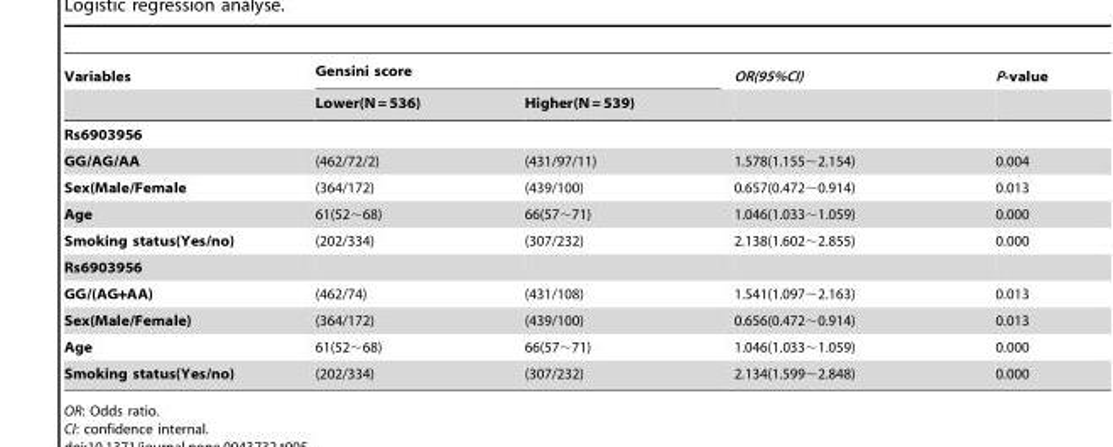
<table><thead><tr><td rowspan="2">Variables</td><td colspan="2">Gensini score</td><td rowspan="2">OR(95%CI)</td><td rowspan="2">P-value</td></tr><tr><td>Lower(N = 536)</td><td>Higher(N = 539)</td></tr></thead><tbody><tr><td colspan="5">Rs6903956</td></tr><tr><td>GG/AG/AA</td><td>(462/72/2)</td><td>(431/97/11)</td><td>1.578(1.155∼2.154)</td><td>0.004</td></tr><tr><td>Sex(Male/Female</td><td>(364/172)</td><td>(439/100)</td><td>0.657(0.472∼0.914)</td><td>0.013</td></tr><tr><td>Age</td><td>61(52∼68)</td><td>66(57∼71)</td><td>1.046(1.033∼1.059)</td><td>0.000</td></tr><tr><td>Smoking status(Yes/no)</td><td>(202/334)</td><td>(307/232)</td><td>2.138(1.602∼2.855)</td><td>0.000</td></tr><tr><td colspan="5">Rs6903956</td></tr><tr><td>GG/(AG+AA)</td><td>(462/74)</td><td>(431/108)</td><td>1.541(1.097∼2.163)</td><td>0.013</td></tr><tr><td>Sex(Male/Female)</td><td>(364/172)</td><td>(439/100)</td><td>0.656(0.472∼0.914)</td><td>0.013</td></tr><tr><td>Age</td><td>61(52∼68)</td><td>66(57∼71)</td><td>1.046(1.033∼1.059)</td><td>0.000</td></tr><tr><td>Smoking status(Yes/no)</td><td>(202/334)</td><td>(307/232)</td><td>2.134(1.599∼2.848)</td><td>0.000</td></tr></tbody></table>